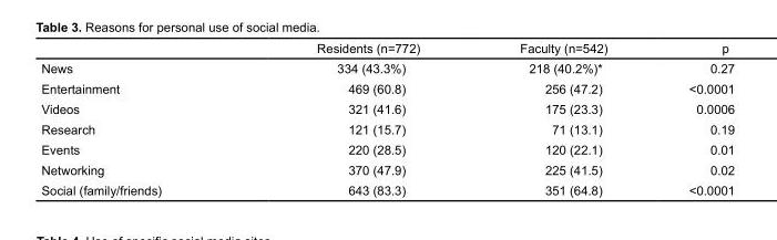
<table><thead><tr><td></td><td>Residents (n=772)</td><td>Faculty (n=542)</td><td>p</td></tr></thead><tbody><tr><td>News</td><td>334 (43.3%)</td><td>218 (40.2%)*</td><td>0.27</td></tr><tr><td>Entertainment</td><td>469 (60.8)</td><td>256 (47.2)</td><td>&lt;0.0001</td></tr><tr><td>Videos</td><td>321 (41.6)</td><td>175 (23.3)</td><td>0.0006</td></tr><tr><td>Research</td><td>121 (15.7)</td><td>71 (13.1)</td><td>0.19</td></tr><tr><td>Events</td><td>220 (28.5)</td><td>120 (22.1)</td><td>0.01</td></tr><tr><td>Networking</td><td>370 (47.9)</td><td>225 (41.5)</td><td>0.02</td></tr><tr><td>Social (family/friends)</td><td>643 (83.3)</td><td>351 (64.8)</td><td>&lt;0.0001</td></tr></tbody></table>